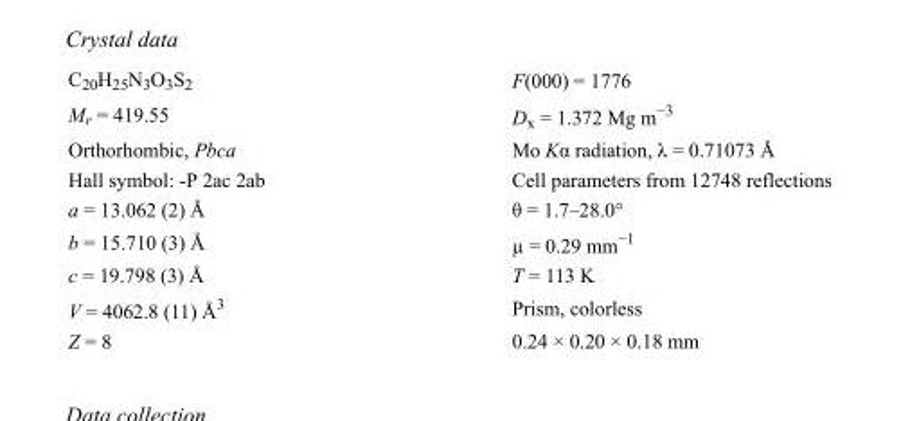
<table><tbody><tr><td>C<sub>20</sub>H<sub>25</sub>N<sub>3</sub>O<sub>3</sub>S<sub>2</sub></td><td>F(000) = 1776</td></tr><tr><td>M<sub>r</sub> = 419.55</td><td>D<sub>x</sub> = 1.372 Mg m<sup>−3</sup></td></tr><tr><td>Orthorhombic, Pbca</td><td>Mo Kα radiation, λ = 0.71073 Å</td></tr><tr><td>Hall symbol: -P 2ac 2ab</td><td>Cell parameters from 12748 reflections</td></tr><tr><td>a = 13.062 (2) Å</td><td>θ = 1.7–28.0°</td></tr><tr><td>b = 15.710 (3) Å</td><td>µ = 0.29 mm<sup>−1</sup></td></tr><tr><td>c = 19.798 (3) Å</td><td>T = 113 K</td></tr><tr><td>V = 4062.8 (11) Å<sup>3</sup></td><td>Prism, colorless</td></tr><tr><td>Z = 8</td><td>0.24 × 0.20 × 0.18 mm</td></tr></tbody></table>